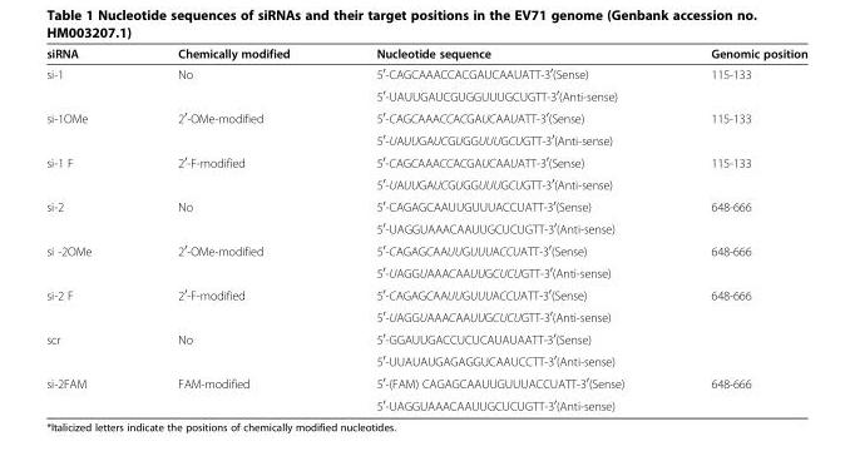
<table><thead><tr><td>siRNA</td><td>Chemically modified</td><td>Nucleotide sequence</td><td>Genomic position</td></tr></thead><tbody><tr><td rowspan="2">si-1</td><td>No</td><td>5<sup>′</sup>-CAGCAAACCACGAUCAAUATT-3<sup>′</sup>(Sense)</td><td>115-133</td></tr><tr><td></td><td>5<sup>′</sup>-UAUUGAUCGUGGUUUGCUGTT-3<sup>′</sup>(Anti-sense)</td><td></td></tr><tr><td rowspan="2">si-1OMe</td><td>2<sup>′</sup>-OMe-modified</td><td>5<sup>′</sup>-CAGCAAACCACGAUCAAUATT-3<sup>′</sup>(Sense)</td><td>115-133</td></tr><tr><td></td><td>5<sup>′</sup>-UAUUGAUCGUGGUUUGCUGTT-3<sup>′</sup>(Anti-sense)</td><td></td></tr><tr><td rowspan="2">si-1 F</td><td>2<sup>′</sup>-F-modified</td><td>5<sup>′</sup>-CAGCAAACCACGAUCAAUATT-3<sup>′</sup>(Sense)</td><td>115-133</td></tr><tr><td></td><td>5<sup>′</sup>-UAUUGAUCGUGGUUUGCUGTT-3<sup>′</sup>(Anti-sense)</td><td></td></tr><tr><td rowspan="2">si-2</td><td>No</td><td>5<sup>′</sup>-CAGAGCAAUUGUUUACCUATT-3<sup>′</sup>(Sense)</td><td>648-666</td></tr><tr><td></td><td>5<sup>′</sup>-UAGGUAAACAAUUGCUCUGTT-3<sup>′</sup>(Anti-sense)</td><td></td></tr><tr><td rowspan="2">si -2OMe</td><td>2<sup>′</sup>-OMe-modified</td><td>5<sup>′</sup>-CAGAGCAAUUGUUUACCUATT-3<sup>′</sup>(Sense)</td><td>648-666</td></tr><tr><td></td><td>5<sup>′</sup>-UAGGUAAACAAUUGCUCUGTT-3<sup>′</sup>(Anti-sense)</td><td></td></tr><tr><td rowspan="2">si-2 F</td><td>2<sup>′</sup>-F-modified</td><td>5<sup>′</sup>-CAGAGCAAUUGUUUACCUATT-3<sup>′</sup>(Sense)</td><td>648-666</td></tr><tr><td></td><td>5<sup>′</sup>-UAGGUAAACAAUUGCUCUGTT-3<sup>′</sup>(Anti-sense)</td><td></td></tr><tr><td rowspan="2">scr</td><td>No</td><td>5<sup>′</sup>-GGAUUGACCUCUCAUAUAATT-3<sup>′</sup>(Sense)</td><td></td></tr><tr><td></td><td>5<sup>′</sup>-UUAUAUGAGAGGUCAAUCCTT-3<sup>′</sup>(Anti-sense)</td><td></td></tr><tr><td rowspan="2">si-2FAM</td><td>FAM-modified</td><td>5<sup>′</sup>-(FAM) CAGAGCAAUUGUUUACCUATT-3<sup>′</sup>(Sense)</td><td>648-666</td></tr><tr><td></td><td>5<sup>′</sup>-UAGGUAAACAAUUGCUCUGTT-3<sup>′</sup>(Anti-sense)</td><td></td></tr></tbody></table>